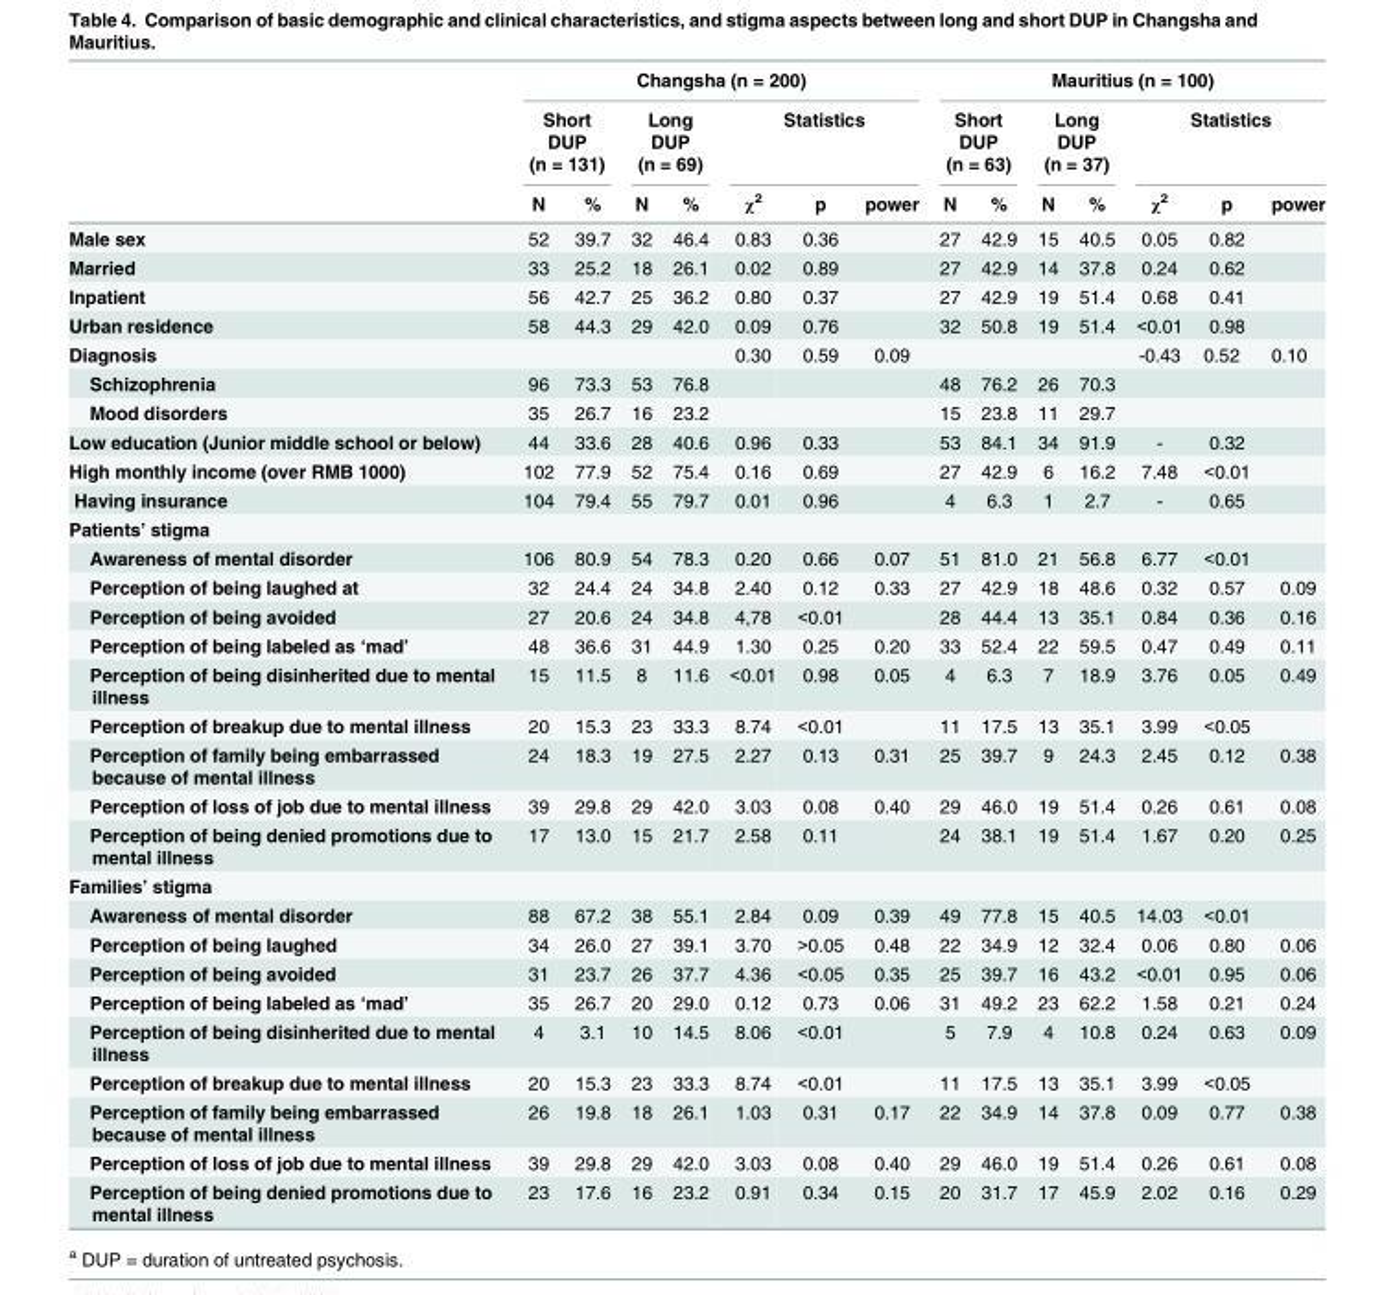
<table><thead><tr><td rowspan="3"></td><td colspan="7">Changsha (n = 200)</td><td colspan="7">Mauritius (n = 100)</td></tr><tr><td colspan="2">Short DUP (n = 131)</td><td colspan="2">Long DUP (n = 69)</td><td colspan="3">Statistics</td><td colspan="2">Short DUP (n = 63)</td><td colspan="2">Long DUP (n = 37)</td><td colspan="3">Statistics</td></tr><tr><td>N</td><td>%</td><td>N</td><td>%</td><td>χ<sup>2</sup></td><td>p</td><td>power</td><td>N</td><td>%</td><td>N</td><td>%</td><td>χ<sup>2</sup></td><td>p</td><td>power</td></tr></thead><tbody><tr><td>Male sex</td><td>52</td><td>39.7</td><td>32</td><td>46.4</td><td>0.83</td><td>0.36</td><td></td><td>27</td><td>42.9</td><td>15</td><td>40.5</td><td>0.05</td><td>0.82</td><td></td></tr><tr><td>Married</td><td>33</td><td>25.2</td><td>18</td><td>26.1</td><td>0.02</td><td>0.89</td><td></td><td>27</td><td>42.9</td><td>14</td><td>37.8</td><td>0.24</td><td>0.62</td><td></td></tr><tr><td>Inpatient</td><td>56</td><td>42.7</td><td>25</td><td>36.2</td><td>0.80</td><td>0.37</td><td></td><td>27</td><td>42.9</td><td>19</td><td>51.4</td><td>0.68</td><td>0.41</td><td></td></tr><tr><td>Urban residence</td><td>58</td><td>44.3</td><td>29</td><td>42.0</td><td>0.09</td><td>0.76</td><td></td><td>32</td><td>50.8</td><td>19</td><td>51.4</td><td>&lt;0.01</td><td>0.98</td><td></td></tr><tr><td>Diagnosis</td><td></td><td></td><td></td><td></td><td>0.30</td><td>0.59</td><td>0.09</td><td></td><td></td><td></td><td></td><td>-0.43</td><td>0.52</td><td>0.10</td></tr><tr><td>Schizophrenia</td><td>96</td><td>73.3</td><td>53</td><td>76.8</td><td></td><td></td><td></td><td>48</td><td>76.2</td><td>26</td><td>70.3</td><td></td><td></td><td></td></tr><tr><td>Mood disorders</td><td>35</td><td>26.7</td><td>16</td><td>23.2</td><td></td><td></td><td></td><td>15</td><td>23.8</td><td>11</td><td>29.7</td><td></td><td></td><td></td></tr><tr><td>Low education (Junior middle school or below)</td><td>44</td><td>33.6</td><td>28</td><td>40.6</td><td>0.96</td><td>0.33</td><td></td><td>53</td><td>84.1</td><td>34</td><td>91.9</td><td>-</td><td>0.32</td><td></td></tr><tr><td>High monthly income (over RMB 1000)</td><td>102</td><td>77.9</td><td>52</td><td>75.4</td><td>0.16</td><td>0.69</td><td></td><td>27</td><td>42.9</td><td>6</td><td>16.2</td><td>7.48</td><td>&lt;0.01</td><td></td></tr><tr><td>Having insurance</td><td>104</td><td>79.4</td><td>55</td><td>79.7</td><td>0.01</td><td>0.96</td><td></td><td>4</td><td>6.3</td><td>1</td><td>2.7</td><td>-</td><td>0.65</td><td></td></tr><tr><td colspan="15">Patients’ stigma</td></tr><tr><td>Awareness of mental disorder</td><td>106</td><td>80.9</td><td>54</td><td>78.3</td><td>0.20</td><td>0.66</td><td>0.07</td><td>51</td><td>81.0</td><td>21</td><td>56.8</td><td>6.77</td><td>&lt;0.01</td><td></td></tr><tr><td>Perception of being laughed at</td><td>32</td><td>24.4</td><td>24</td><td>34.8</td><td>2.40</td><td>0.12</td><td>0.33</td><td>27</td><td>42.9</td><td>18</td><td>48.6</td><td>0.32</td><td>0.57</td><td>0.09</td></tr><tr><td>Perception of being avoided</td><td>27</td><td>20.6</td><td>24</td><td>34.8</td><td>4,78</td><td>&lt;0.01</td><td></td><td>28</td><td>44.4</td><td>13</td><td>35.1</td><td>0.84</td><td>0.36</td><td>0.16</td></tr><tr><td>Perception of being labeled as ‘mad’</td><td>48</td><td>36.6</td><td>31</td><td>44.9</td><td>1.30</td><td>0.25</td><td>0.20</td><td>33</td><td>52.4</td><td>22</td><td>59.5</td><td>0.47</td><td>0.49</td><td>0.11</td></tr><tr><td>Perception of being disinherited due to mental illness</td><td>15</td><td>11.5</td><td>8</td><td>11.6</td><td>&lt;0.01</td><td>0.98</td><td>0.05</td><td>4</td><td>6.3</td><td>7</td><td>18.9</td><td>3.76</td><td>0.05</td><td>0.49</td></tr><tr><td>Perception of breakup due to mental illness</td><td>20</td><td>15.3</td><td>23</td><td>33.3</td><td>8.74</td><td>&lt;0.01</td><td></td><td>11</td><td>17.5</td><td>13</td><td>35.1</td><td>3.99</td><td>&lt;0.05</td><td></td></tr><tr><td>Perception of family being embarrassed because of mental illness</td><td>24</td><td>18.3</td><td>19</td><td>27.5</td><td>2.27</td><td>0.13</td><td>0.31</td><td>25</td><td>39.7</td><td>9</td><td>24.3</td><td>2.45</td><td>0.12</td><td>0.38</td></tr><tr><td>Perception of loss of job due to mental illness</td><td>39</td><td>29.8</td><td>29</td><td>42.0</td><td>3.03</td><td>0.08</td><td>0.40</td><td>29</td><td>46.0</td><td>19</td><td>51.4</td><td>0.26</td><td>0.61</td><td>0.08</td></tr><tr><td>Perception of being denied promotions due to mental illness</td><td>17</td><td>13.0</td><td>15</td><td>21.7</td><td>2.58</td><td>0.11</td><td></td><td>24</td><td>38.1</td><td>19</td><td>51.4</td><td>1.67</td><td>0.20</td><td>0.25</td></tr><tr><td colspan="15">Families’ stigma</td></tr><tr><td>Awareness of mental disorder</td><td>88</td><td>67.2</td><td>38</td><td>55.1</td><td>2.84</td><td>0.09</td><td>0.39</td><td>49</td><td>77.8</td><td>15</td><td>40.5</td><td>14.03</td><td>&lt;0.01</td><td></td></tr><tr><td>Perception of being laughed</td><td>34</td><td>26.0</td><td>27</td><td>39.1</td><td>3.70</td><td>&gt;0.05</td><td>0.48</td><td>22</td><td>34.9</td><td>12</td><td>32.4</td><td>0.06</td><td>0.80</td><td>0.06</td></tr><tr><td>Perception of being avoided</td><td>31</td><td>23.7</td><td>26</td><td>37.7</td><td>4.36</td><td>&lt;0.05</td><td>0.35</td><td>25</td><td>39.7</td><td>16</td><td>43.2</td><td>&lt;0.01</td><td>0.95</td><td>0.06</td></tr><tr><td>Perception of being labeled as ‘mad’</td><td>35</td><td>26.7</td><td>20</td><td>29.0</td><td>0.12</td><td>0.73</td><td>0.06</td><td>31</td><td>49.2</td><td>23</td><td>62.2</td><td>1.58</td><td>0.21</td><td>0.24</td></tr><tr><td>Perception of being disinherited due to mental illness</td><td>4</td><td>3.1</td><td>10</td><td>14.5</td><td>8.06</td><td>&lt;0.01</td><td></td><td>5</td><td>7.9</td><td>4</td><td>10.8</td><td>0.24</td><td>0.63</td><td>0.09</td></tr><tr><td>Perception of breakup due to mental illness</td><td>20</td><td>15.3</td><td>23</td><td>33.3</td><td>8.74</td><td>&lt;0.01</td><td></td><td>11</td><td>17.5</td><td>13</td><td>35.1</td><td>3.99</td><td>&lt;0.05</td><td></td></tr><tr><td>Perception of family being embarrassed because of mental illness</td><td>26</td><td>19.8</td><td>18</td><td>26.1</td><td>1.03</td><td>0.31</td><td>0.17</td><td>22</td><td>34.9</td><td>14</td><td>37.8</td><td>0.09</td><td>0.77</td><td>0.38</td></tr><tr><td>Perception of loss of job due to mental illness</td><td>39</td><td>29.8</td><td>29</td><td>42.0</td><td>3.03</td><td>0.08</td><td>0.40</td><td>29</td><td>46.0</td><td>19</td><td>51.4</td><td>0.26</td><td>0.61</td><td>0.08</td></tr><tr><td>Perception of being denied promotions due to mental illness</td><td>23</td><td>17.6</td><td>16</td><td>23.2</td><td>0.91</td><td>0.34</td><td>0.15</td><td>20</td><td>31.7</td><td>17</td><td>45.9</td><td>2.02</td><td>0.16</td><td>0.29</td></tr></tbody></table>